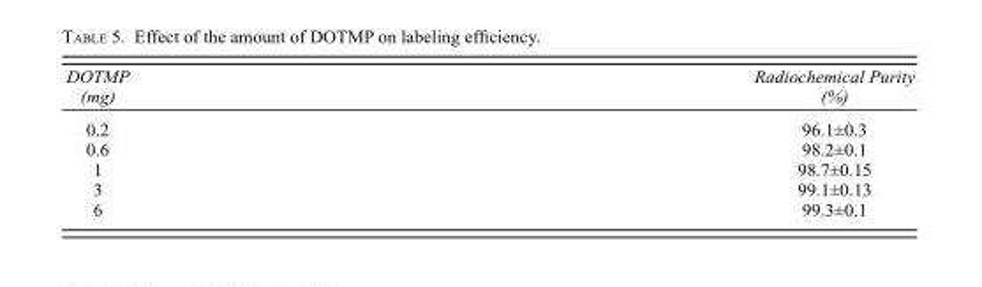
<table><thead><tr><td>DOTMP (mg)</td><td>Radiochemical Purity (%)</td></tr></thead><tbody><tr><td>0.2</td><td>96.1±0.3</td></tr><tr><td>0.6</td><td>98.2±0.1</td></tr><tr><td>1</td><td>98.7±0.15</td></tr><tr><td>3</td><td>99.1±0.13</td></tr><tr><td>6</td><td>99.3±0.1</td></tr></tbody></table>